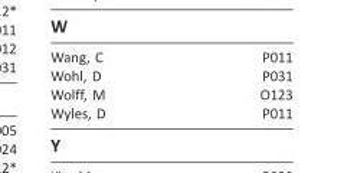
<table><tbody><tr><td>Wang, C</td><td>P011</td></tr><tr><td>Wohl, D</td><td>P031</td></tr><tr><td>Wolff, M</td><td>O123</td></tr><tr><td>Wyles, D</td><td>P011</td></tr></tbody></table>